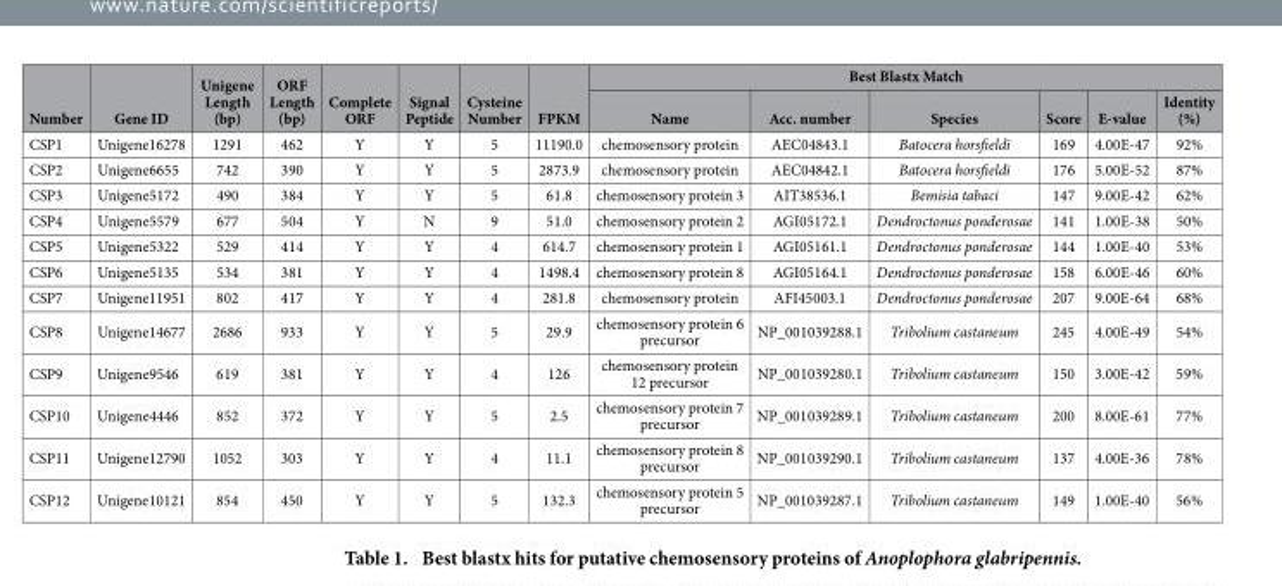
<table><thead><tr><td rowspan="2">Number</td><td rowspan="2">Gene ID</td><td rowspan="2">Unigene Length (bp)</td><td rowspan="2">ORF Length (bp)</td><td rowspan="2">Complete ORF</td><td rowspan="2">Signal Peptide</td><td rowspan="2">Cysteine Number</td><td rowspan="2">FPKM</td><td colspan="6">Best Blastx Match</td></tr><tr><td>Name</td><td>Acc. number</td><td>Species</td><td>Score</td><td>E-value</td><td>Identity (%)</td></tr></thead><tbody><tr><td>CSP1</td><td>Unigene16278</td><td>1291</td><td>462</td><td>Y</td><td>Y</td><td>5</td><td>11190.0</td><td>chemosensory protein</td><td>AEC04843.1</td><td>Batocera horsfieldi</td><td>169</td><td>4.00E-47</td><td>92%</td></tr><tr><td>CSP2</td><td>Unigene6655</td><td>742</td><td>390</td><td>Y</td><td>Y</td><td>5</td><td>2873.9</td><td>chemosensory protein</td><td>AEC04842.1</td><td>Batocera horsfieldi</td><td>176</td><td>5.00E-52</td><td>87%</td></tr><tr><td>CSP3</td><td>Unigene5172</td><td>490</td><td>384</td><td>Y</td><td>Y</td><td>5</td><td>61.8</td><td>chemosensory protein 3</td><td>AIT38536.1</td><td>Bemisia tabaci</td><td>147</td><td>9.00E-42</td><td>62%</td></tr><tr><td>CSP4</td><td>Unigene5579</td><td>677</td><td>504</td><td>Y</td><td>N</td><td>9</td><td>51.0</td><td>chemosensory protein 2</td><td>AGI05172.1</td><td>Dendroctonus ponderosae</td><td>141</td><td>1.00E-38</td><td>50%</td></tr><tr><td>CSP5</td><td>Unigene5322</td><td>529</td><td>414</td><td>Y</td><td>Y</td><td>4</td><td>614.7</td><td>chemosensory protein 1</td><td>AGI05161.1</td><td>Dendroctonus ponderosae</td><td>144</td><td>1.00E-40</td><td>53%</td></tr><tr><td>CSP6</td><td>Unigene5135</td><td>534</td><td>381</td><td>Y</td><td>Y</td><td>4</td><td>1498.4</td><td>chemosensory protein 8</td><td>AGI05164.1</td><td>Dendroctonus ponderosae</td><td>158</td><td>6.00E-46</td><td>60%</td></tr><tr><td>CSP7</td><td>Unigene11951</td><td>802</td><td>417</td><td>Y</td><td>Y</td><td>4</td><td>281.8</td><td>chemosensory protein</td><td>AFI45003.1</td><td>Dendroctonus ponderosae</td><td>207</td><td>9.00E-64</td><td>68%</td></tr><tr><td>CSP8</td><td>Unigene14677</td><td>2686</td><td>933</td><td>Y</td><td>Y</td><td>5</td><td>29.9</td><td>chemosensory protein 6 precursor</td><td>NP_001039288.1</td><td>Tribolium castaneum</td><td>245</td><td>4.00E-49</td><td>54%</td></tr><tr><td>CSP9</td><td>Unigene9546</td><td>619</td><td>381</td><td>Y</td><td>Y</td><td>4</td><td>126</td><td>chemosensory protein 12 precursor</td><td>NP_001039280.1</td><td>Tribolium castaneum</td><td>150</td><td>3.00E-42</td><td>59%</td></tr><tr><td>CSP10</td><td>Unigene4446</td><td>852</td><td>372</td><td>Y</td><td>Y</td><td>5</td><td>2.5</td><td>chemosensory protein 7 precursor</td><td>NP_001039289.1</td><td>Tribolium castaneum</td><td>200</td><td>8.00E-61</td><td>77%</td></tr><tr><td>CSP11</td><td>Unigene12790</td><td>1052</td><td>303</td><td>Y</td><td>Y</td><td>4</td><td>11.1</td><td>chemosensory protein 8 precursor</td><td>NP_001039290.1</td><td>Tribolium castaneum</td><td>137</td><td>4.00E-36</td><td>78%</td></tr><tr><td>CSP12</td><td>Unigene10121</td><td>854</td><td>450</td><td>Y</td><td>Y</td><td>5</td><td>132.3</td><td>chemosensory protein 5 precursor</td><td>NP_001039287.1</td><td>Tribolium castaneum</td><td>149</td><td>1.00E-40</td><td>56%</td></tr></tbody></table>